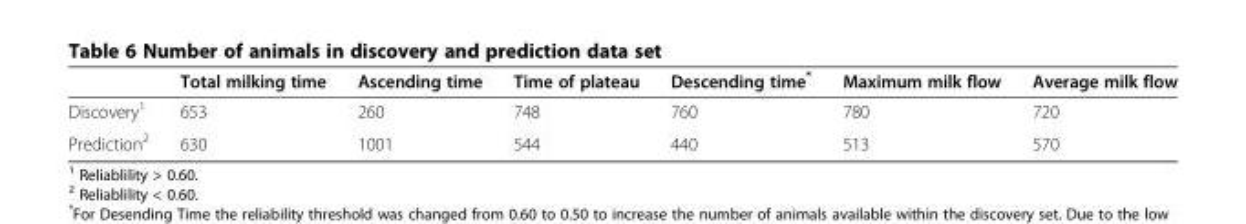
<table><thead><tr><td></td><td>Total milking time</td><td>Ascending time</td><td>Time of plateau</td><td>Descending time*</td><td>Maximum milk flow</td><td>Average milk flow</td></tr></thead><tbody><tr><td>Discovery<sup>1</sup></td><td>653</td><td>260</td><td>748</td><td>760</td><td>780</td><td>720</td></tr><tr><td>Prediction<sup>2</sup></td><td>630</td><td>1001</td><td>544</td><td>440</td><td>513</td><td>570</td></tr></tbody></table>